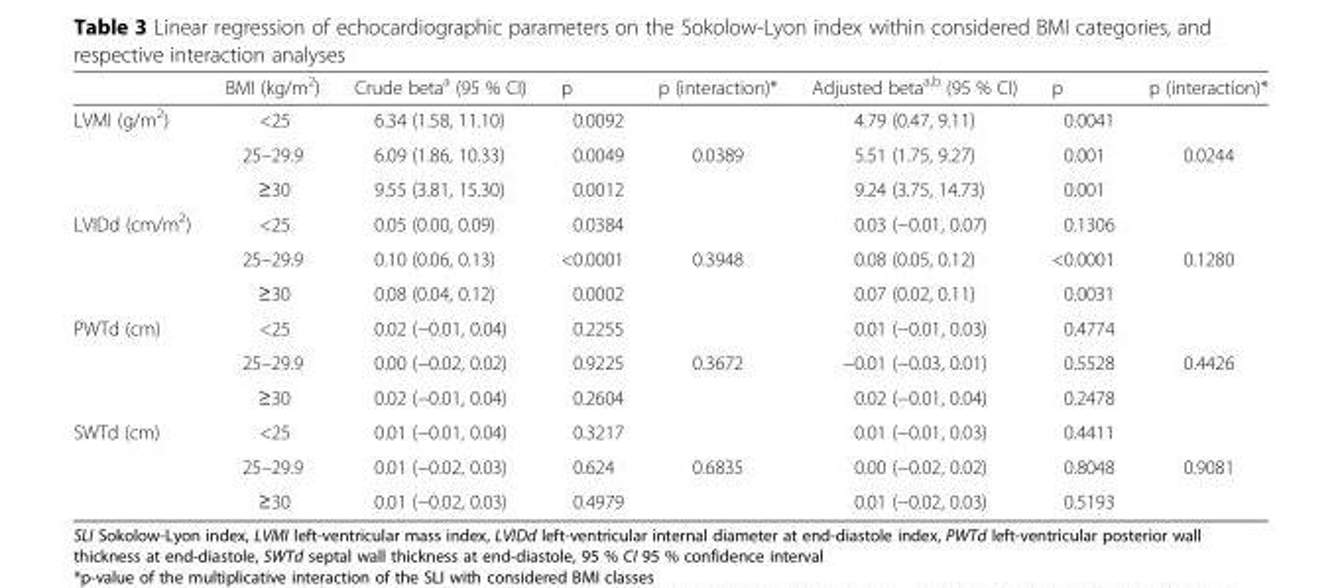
<table><thead><tr><td></td><td>BMI (kg/m<sup>2</sup>)</td><td>Crude beta<sup>a</sup> (95 % CI)</td><td>p</td><td>p (interaction)*</td><td>Adjusted beta<sup>a,b</sup> (95 % CI)</td><td>p</td><td>p (interaction)*</td></tr></thead><tbody><tr><td rowspan="3">LVMI (g/m<sup>2</sup>)</td><td>&lt;25</td><td>6.34 (1.58, 11.10)</td><td>0.0092</td><td></td><td>4.79 (0.47, 9.11)</td><td>0.0041</td><td></td></tr><tr><td>25–29.9</td><td>6.09 (1.86, 10.33)</td><td>0.0049</td><td>0.0389</td><td>5.51 (1.75, 9.27)</td><td>0.001</td><td>0.0244</td></tr><tr><td>≥30</td><td>9.55 (3.81, 15.30)</td><td>0.0012</td><td></td><td>9.24 (3.75, 14.73)</td><td>0.001</td><td></td></tr><tr><td rowspan="3">LVIDd (cm/m<sup>2</sup>)</td><td>&lt;25</td><td>0.05 (0.00, 0.09)</td><td>0.0384</td><td></td><td>0.03 (−0.01, 0.07)</td><td>0.1306</td><td></td></tr><tr><td>25–29.9</td><td>0.10 (0.06, 0.13)</td><td>&lt;0.0001</td><td>0.3948</td><td>0.08 (0.05, 0.12)</td><td>&lt;0.0001</td><td>0.1280</td></tr><tr><td>≥30</td><td>0.08 (0.04, 0.12)</td><td>0.0002</td><td></td><td>0.07 (0.02, 0.11)</td><td>0.0031</td><td></td></tr><tr><td rowspan="3">PWTd (cm)</td><td>&lt;25</td><td>0.02 (−0.01, 0.04)</td><td>0.2255</td><td></td><td>0.01 (−0.01, 0.03)</td><td>0.4774</td><td></td></tr><tr><td>25–29.9</td><td>0.00 (−0.02, 0.02)</td><td>0.9225</td><td>0.3672</td><td>−0.01 (−0.03, 0.01)</td><td>0.5528</td><td>0.4426</td></tr><tr><td>≥30</td><td>0.02 (−0.01, 0.04)</td><td>0.2604</td><td></td><td>0.02 (−0.01, 0.04)</td><td>0.2478</td><td></td></tr><tr><td rowspan="3">SWTd (cm)</td><td>&lt;25</td><td>0.01 (−0.01, 0.04)</td><td>0.3217</td><td></td><td>0.01 (−0.01, 0.03)</td><td>0.4411</td><td></td></tr><tr><td>25–29.9</td><td>0.01 (−0.02, 0.03)</td><td>0.624</td><td>0.6835</td><td>0.00 (−0.02, 0.02)</td><td>0.8048</td><td>0.9081</td></tr><tr><td>≥30</td><td>0.01 (−0.02, 0.03)</td><td>0.4979</td><td></td><td>0.01 (−0.02, 0.03)</td><td>0.5193</td><td></td></tr></tbody></table>